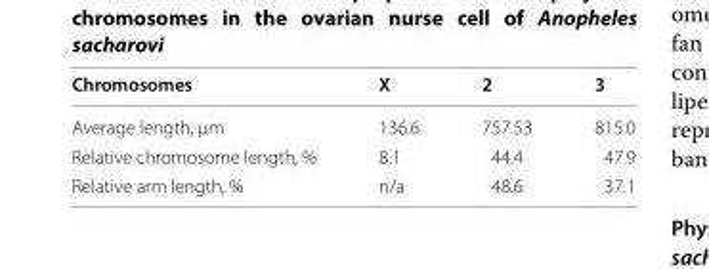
<table><thead><tr><td>Chromosomes</td><td>X</td><td>2</td><td>3</td></tr></thead><tbody><tr><td>Average length, μm</td><td>136.6</td><td>757.53</td><td>815.0</td></tr><tr><td>Relative chromosome length, %</td><td>8.1</td><td>44.4</td><td>47.9</td></tr><tr><td>Relative arm length, %</td><td>n/a</td><td>48.6</td><td>37.1</td></tr></tbody></table>